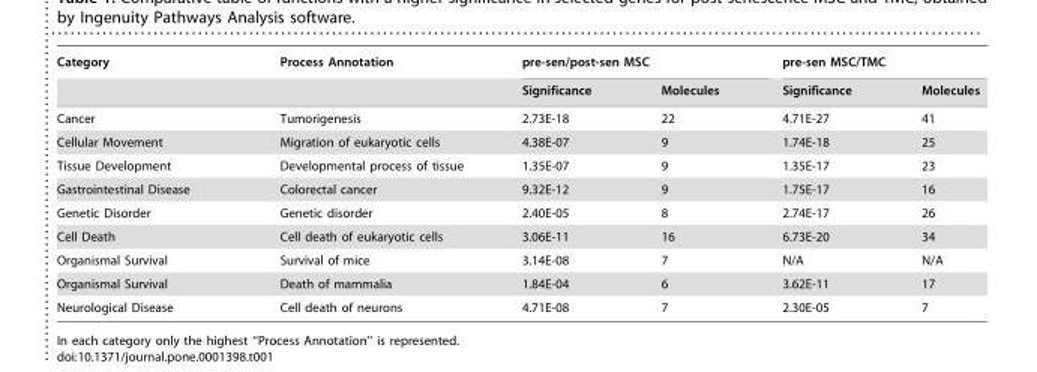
<table><thead><tr><td rowspan="2">Category</td><td rowspan="2">Process Annotation</td><td colspan="2">pre-sen/post-sen MSC</td><td colspan="2">pre-sen MSC/TMC</td></tr><tr><td>Significance</td><td>Molecules</td><td>Significance</td><td>Molecules</td></tr></thead><tbody><tr><td>Cancer</td><td>Tumorigenesis</td><td>2.73E-18</td><td>22</td><td>4.71E-27</td><td>41</td></tr><tr><td>Cellular Movement</td><td>Migration of eukaryotic cells</td><td>4.38E-07</td><td>9</td><td>1.74E-18</td><td>25</td></tr><tr><td>Tissue Development</td><td>Developmental process of tissue</td><td>1.35E-07</td><td>9</td><td>1.35E-17</td><td>23</td></tr><tr><td>Gastrointestinal Disease</td><td>Colorectal cancer</td><td>9.32E-12</td><td>9</td><td>1.75E-17</td><td>16</td></tr><tr><td>Genetic Disorder</td><td>Genetic disorder</td><td>2.40E-05</td><td>8</td><td>2.74E-17</td><td>26</td></tr><tr><td>Cell Death</td><td>Cell death of eukaryotic cells</td><td>3.06E-11</td><td>16</td><td>6.73E-20</td><td>34</td></tr><tr><td>Organismal Survival</td><td>Survival of mice</td><td>3.14E-08</td><td>7</td><td>N/A</td><td>N/A</td></tr><tr><td>Organismal Survival</td><td>Death of mammalia</td><td>1.84E-04</td><td>6</td><td>3.62E-11</td><td>17</td></tr><tr><td>Neurological Disease</td><td>Cell death of neurons</td><td>4.71E-08</td><td>7</td><td>2.30E-05</td><td>7</td></tr></tbody></table>